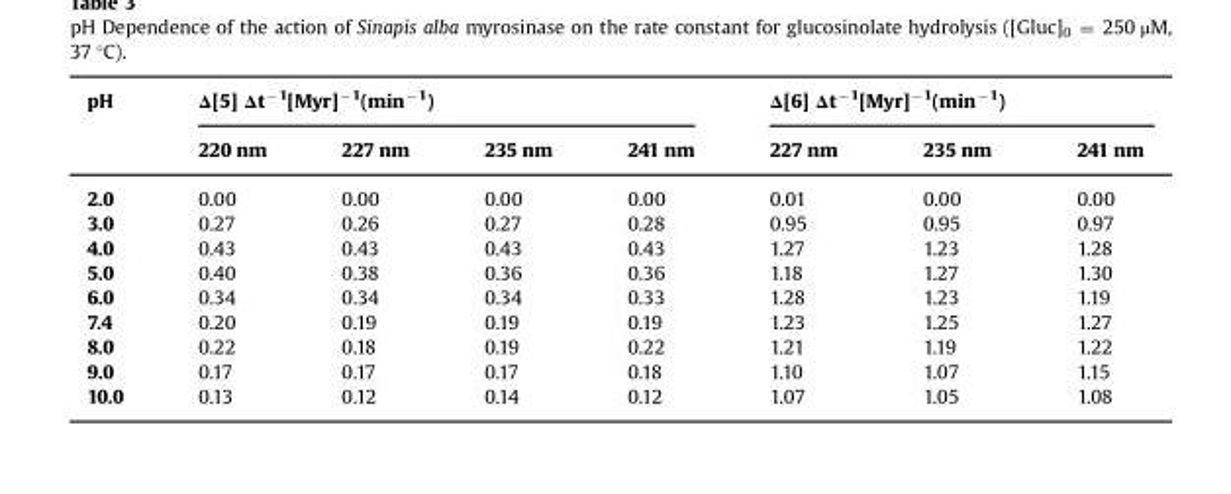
<table><thead><tr><td rowspan="2">pH</td><td colspan="4">Δ[5] Δt<sup>−1</sup>[Myr]<sup>−1</sup>(min<sup>−1</sup>)</td><td colspan="3">Δ[6] Δt<sup>−1</sup>[Myr]<sup>−1</sup>(min<sup>−1</sup>)</td></tr><tr><td>220 nm</td><td>227 nm</td><td>235 nm</td><td>241 nm</td><td>227 nm</td><td>235 nm</td><td>241 nm</td></tr></thead><tbody><tr><td>2.0</td><td>0.00</td><td>0.00</td><td>0.00</td><td>0.00</td><td>0.01</td><td>0.00</td><td>0.00</td></tr><tr><td>3.0</td><td>0.27</td><td>0.26</td><td>0.27</td><td>0.28</td><td>0.95</td><td>0.95</td><td>0.97</td></tr><tr><td>4.0</td><td>0.43</td><td>0.43</td><td>0.43</td><td>0.43</td><td>1.27</td><td>1.23</td><td>1.28</td></tr><tr><td>5.0</td><td>0.40</td><td>0.38</td><td>0.36</td><td>0.36</td><td>1.18</td><td>1.27</td><td>1.30</td></tr><tr><td>6.0</td><td>0.34</td><td>0.34</td><td>0.34</td><td>0.33</td><td>1.28</td><td>1.23</td><td>1.19</td></tr><tr><td>7.4</td><td>0.20</td><td>0.19</td><td>0.19</td><td>0.19</td><td>1.23</td><td>1.25</td><td>1.27</td></tr><tr><td>8.0</td><td>0.22</td><td>0.18</td><td>0.19</td><td>0.22</td><td>1.21</td><td>1.19</td><td>1.22</td></tr><tr><td>9.0</td><td>0.17</td><td>0.17</td><td>0.17</td><td>0.18</td><td>1.10</td><td>1.07</td><td>1.15</td></tr><tr><td>10.0</td><td>0.13</td><td>0.12</td><td>0.14</td><td>0.12</td><td>1.07</td><td>1.05</td><td>1.08</td></tr></tbody></table>